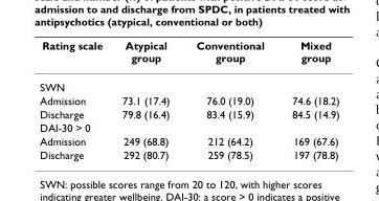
<table><thead><tr><td>Rating scale</td><td>Atypical group</td><td>Conventional group</td><td>Mixed group</td></tr></thead><tbody><tr><td colspan="4">SWN</td></tr><tr><td>Admission</td><td>73.1 (17.4)</td><td>76.0 (19.0)</td><td>74.6 (18.2)</td></tr><tr><td>Discharge</td><td>79.8 (16.4)</td><td>83.4 (15.9)</td><td>84.5 (14.9)</td></tr><tr><td colspan="4">DAI-30 &gt; 0</td></tr><tr><td>Admission</td><td>249 (68.8)</td><td>212 (64.2)</td><td>169 (67.6)</td></tr><tr><td>Discharge</td><td>292 (80.7)</td><td>259 (78.5)</td><td>197 (78.8)</td></tr></tbody></table>